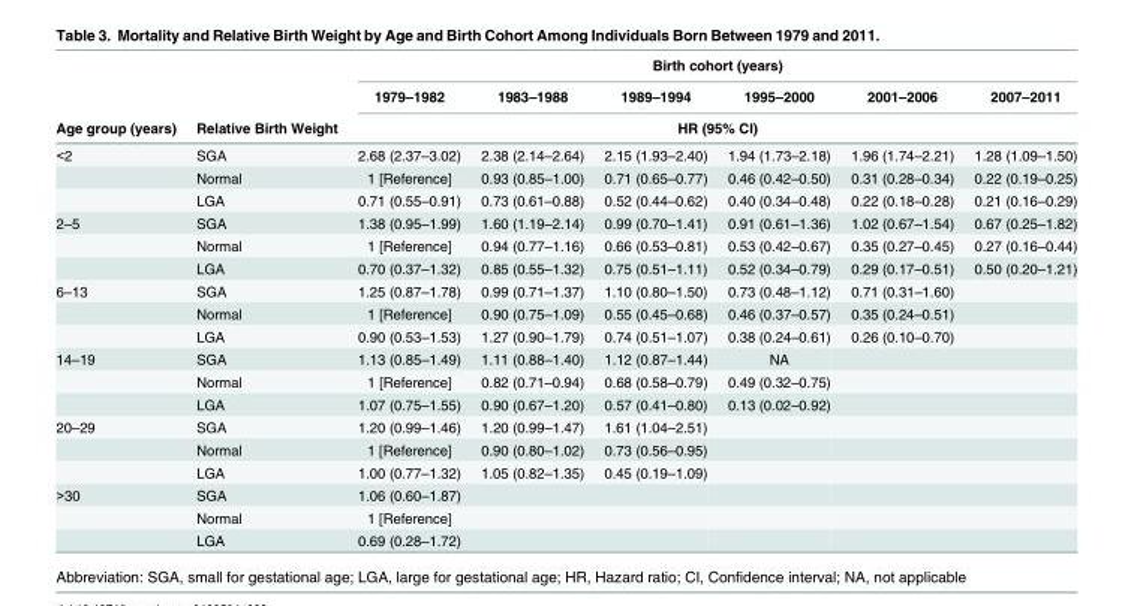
<table><thead><tr><td rowspan="3">Age group (years)</td><td rowspan="3">Relative Birth Weight</td><td colspan="6">Birth cohort (years)</td></tr><tr><td>1979–1982</td><td>1983–1988</td><td>1989–1994</td><td>1995–2000</td><td>2001–2006</td><td>2007–2011</td></tr><tr><td colspan="6">HR (95% CI)</td></tr></thead><tbody><tr><td rowspan="3">&lt;2</td><td>SGA</td><td>2.68 (2.37–3.02)</td><td>2.38 (2.14–2.64)</td><td>2.15 (1.93–2.40)</td><td>1.94 (1.73–2.18)</td><td>1.96 (1.74–2.21)</td><td>1.28 (1.09–1.50)</td></tr><tr><td>Normal</td><td>1 [Reference]</td><td>0.93 (0.85–1.00)</td><td>0.71 (0.65–0.77)</td><td>0.46 (0.42–0.50)</td><td>0.31 (0.28–0.34)</td><td>0.22 (0.19–0.25)</td></tr><tr><td>LGA</td><td>0.71 (0.55–0.91)</td><td>0.73 (0.61–0.88)</td><td>0.52 (0.44–0.62)</td><td>0.40 (0.34–0.48)</td><td>0.22 (0.18–0.28)</td><td>0.21 (0.16–0.29)</td></tr><tr><td rowspan="3">2–5</td><td>SGA</td><td>1.38 (0.95–1.99)</td><td>1.60 (1.19–2.14)</td><td>0.99 (0.70–1.41)</td><td>0.91 (0.61–1.36)</td><td>1.02 (0.67–1.54)</td><td>0.67 (0.25–1.82)</td></tr><tr><td>Normal</td><td>1 [Reference]</td><td>0.94 (0.77–1.16)</td><td>0.66 (0.53–0.81)</td><td>0.53 (0.42–0.67)</td><td>0.35 (0.27–0.45)</td><td>0.27 (0.16–0.44)</td></tr><tr><td>LGA</td><td>0.70 (0.37–1.32)</td><td>0.85 (0.55–1.32)</td><td>0.75 (0.51–1.11)</td><td>0.52 (0.34–0.79)</td><td>0.29 (0.17–0.51)</td><td>0.50 (0.20–1.21)</td></tr><tr><td rowspan="3">6–13</td><td>SGA</td><td>1.25 (0.87–1.78)</td><td>0.99 (0.71–1.37)</td><td>1.10 (0.80–1.50)</td><td>0.73 (0.48–1.12)</td><td>0.71 (0.31–1.60)</td><td></td></tr><tr><td>Normal</td><td>1 [Reference]</td><td>0.90 (0.75–1.09)</td><td>0.55 (0.45–0.68)</td><td>0.46 (0.37–0.57)</td><td>0.35 (0.24–0.51)</td><td></td></tr><tr><td>LGA</td><td>0.90 (0.53–1.53)</td><td>1.27 (0.90–1.79)</td><td>0.74 (0.51–1.07)</td><td>0.38 (0.24–0.61)</td><td>0.26 (0.10–0.70)</td><td></td></tr><tr><td rowspan="3">14–19</td><td>SGA</td><td>1.13 (0.85–1.49)</td><td>1.11 (0.88–1.40)</td><td>1.12 (0.87–1.44)</td><td>NA</td><td></td><td></td></tr><tr><td>Normal</td><td>1 [Reference]</td><td>0.82 (0.71–0.94)</td><td>0.68 (0.58–0.79)</td><td>0.49 (0.32–0.75)</td><td></td><td></td></tr><tr><td>LGA</td><td>1.07 (0.75–1.55)</td><td>0.90 (0.67–1.20)</td><td>0.57 (0.41–0.80)</td><td>0.13 (0.02–0.92)</td><td></td><td></td></tr><tr><td rowspan="3">20–29</td><td>SGA</td><td>1.20 (0.99–1.46)</td><td>1.20 (0.99–1.47)</td><td>1.61 (1.04–2.51)</td><td></td><td></td><td></td></tr><tr><td>Normal</td><td>1 [Reference]</td><td>0.90 (0.80–1.02)</td><td>0.73 (0.56–0.95)</td><td></td><td></td><td></td></tr><tr><td>LGA</td><td>1.00 (0.77–1.32)</td><td>1.05 (0.82–1.35)</td><td>0.45 (0.19–1.09)</td><td></td><td></td><td></td></tr><tr><td rowspan="3">&gt;30</td><td>SGA</td><td>1.06 (0.60–1.87)</td><td></td><td></td><td></td><td></td><td></td></tr><tr><td>Normal</td><td>1 [Reference]</td><td></td><td></td><td></td><td></td><td></td></tr><tr><td>LGA</td><td>0.69 (0.28–1.72)</td><td></td><td></td><td></td><td></td><td></td></tr></tbody></table>